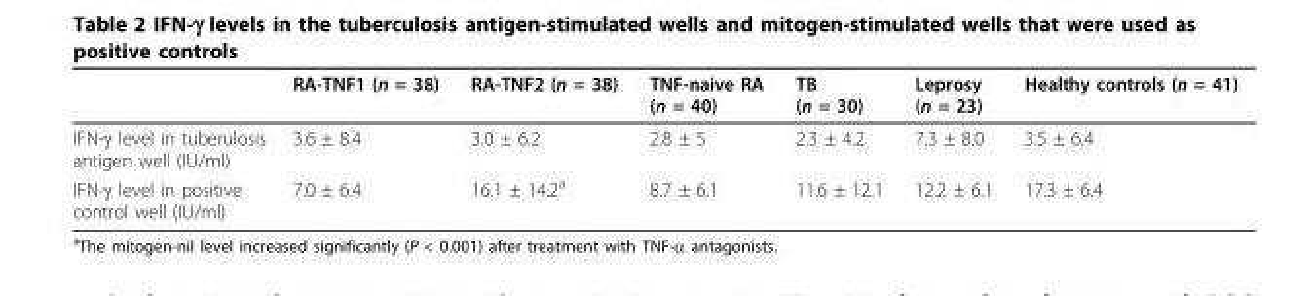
<table><thead><tr><td></td><td>RA-TNF1 (n = 38)</td><td>RA-TNF2 (n = 38)</td><td>TNF-naive RA (n = 40)</td><td>TB (n = 30)</td><td>Leprosy (n = 23)</td><td>Healthy controls (n = 41)</td></tr></thead><tbody><tr><td>IFN-γ level in tuberulosis antigen well (IU/ml)</td><td>3.6 ± 8.4</td><td>3.0 ± 6.2</td><td>2.8 ± 5</td><td>2.3 ± 4.2</td><td>7.3 ± 8.0</td><td>3.5 ± 6.4</td></tr><tr><td>IFN-γ level in positive control well (IU/ml)</td><td>7.0 ± 6.4</td><td>16.1 ± 14.2<sup>a</sup></td><td>8.7 ± 6.1</td><td>11.6 ± 12.1</td><td>12.2 ± 6.1</td><td>17.3 ± 6.4</td></tr></tbody></table>